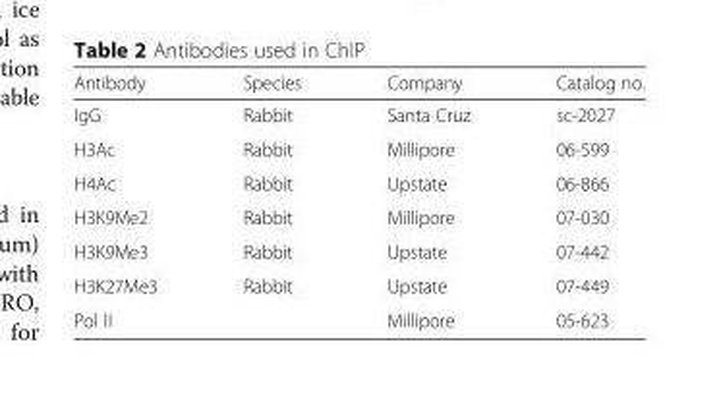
<table><thead><tr><td>Antibody</td><td>Species</td><td>Company</td><td>Catalog no.</td></tr></thead><tbody><tr><td>IgG</td><td>Rabbit</td><td>Santa Cruz</td><td>sc-2027</td></tr><tr><td>H3Ac</td><td>Rabbit</td><td>Millipore</td><td>06-599</td></tr><tr><td>H4Ac</td><td>Rabbit</td><td>Upstate</td><td>06-866</td></tr><tr><td>H3K9Me2</td><td>Rabbit</td><td>Millipore</td><td>07-030</td></tr><tr><td>H3K9Me3</td><td>Rabbit</td><td>Upstate</td><td>07-442</td></tr><tr><td>H3K27Me3</td><td>Rabbit</td><td>Upstate</td><td>07-449</td></tr><tr><td>Pol II</td><td></td><td>Millipore</td><td>05-623</td></tr></tbody></table>